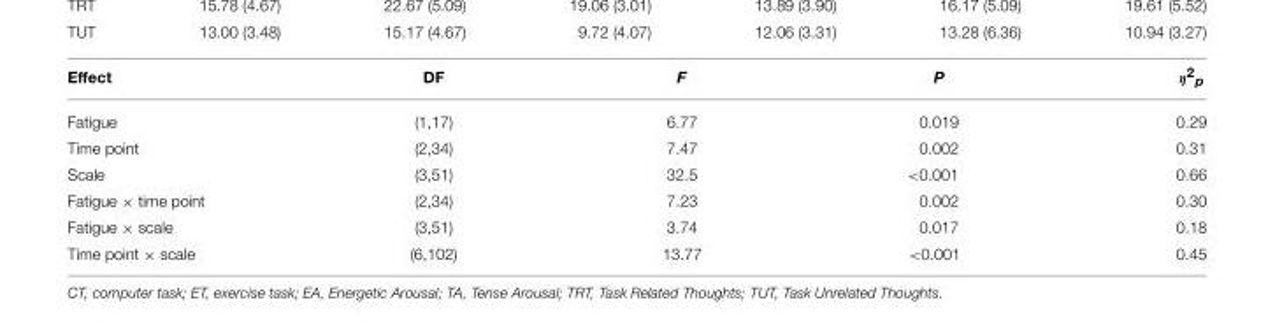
<table><thead><tr><td>Effect</td><td>DF</td><td>F</td><td>P</td><td>η<sup>2</sup>p</td></tr></thead><tbody><tr><td>Fatigue</td><td>(1,17)</td><td>6.77</td><td>0.019</td><td>0.29</td></tr><tr><td>Time point</td><td>(2,34)</td><td>7.47</td><td>0.002</td><td>0.31</td></tr><tr><td>Scale</td><td>(3,51)</td><td>32.5</td><td>&lt;0.001</td><td>0.66</td></tr><tr><td>Fatigue × time point</td><td>(2,34)</td><td>7.23</td><td>0.002</td><td>0.30</td></tr><tr><td>Fatigue × scale</td><td>(3,51)</td><td>3.74</td><td>0.017</td><td>0.18</td></tr><tr><td>Time point × scale</td><td>(6,102)</td><td>13.77</td><td>&lt;0.001</td><td>0.45</td></tr></tbody></table>